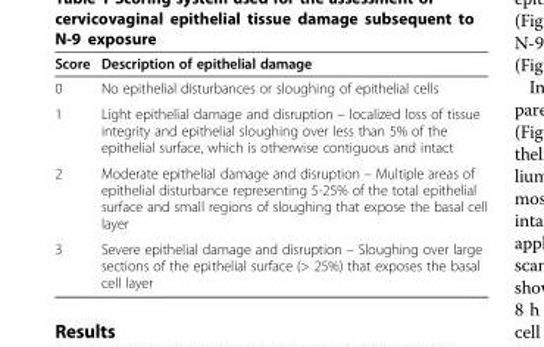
<table><thead><tr><td>Score</td><td>Description of epithelial damage</td></tr></thead><tbody><tr><td>0</td><td>No epithelial disturbances or sloughing of epithelial cells</td></tr><tr><td>1</td><td>Light epithelial damage and disruption – localized loss of tissue integrity and epithelial sloughing over less than 5% of the epithelial surface, which is otherwise contiguous and intact</td></tr><tr><td>2</td><td>Moderate epithelial damage and disruption – Multiple areas of epithelial disturbance representing 5-25% of the total epithelial surface and small regions of sloughing that expose the basal cell layer</td></tr><tr><td>3</td><td>Severe epithelial damage and disruption – Sloughing over large sections of the epithelial surface (&gt; 25%) that exposes the basal cell layer</td></tr></tbody></table>